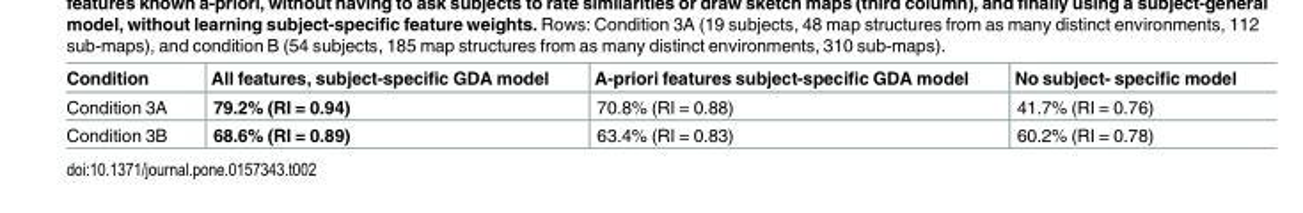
<table><thead><tr><td>Condition</td><td>All features, subject-specific GDA model</td><td>A-priori features subject-specific GDA model</td><td>No subject- specific model</td></tr></thead><tbody><tr><td>Condition 3A</td><td>79.2% (RI = 0.94)</td><td>70.8% (RI = 0.88)</td><td>41.7% (RI = 0.76)</td></tr><tr><td>Condition 3B</td><td>68.6% (RI = 0.89)</td><td>63.4% (RI = 0.83)</td><td>60.2% (RI = 0.78)</td></tr></tbody></table>